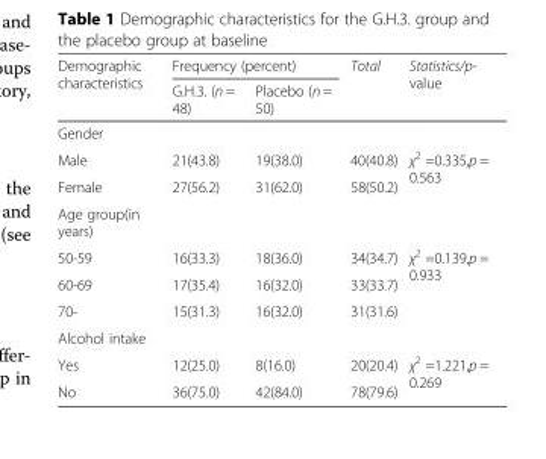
<table><thead><tr><td rowspan="2">Demographic characteristics</td><td colspan="2">Frequency (percent)</td><td rowspan="2">Total</td><td rowspan="2">Statistics/p- value</td></tr><tr><td>G.H.3. (n = 48)</td><td>Placebo (n = 50)</td></tr></thead><tbody><tr><td colspan="5">Gender</td></tr><tr><td>Male</td><td>21(43.8)</td><td>19(38.0)</td><td>40(40.8)</td><td rowspan="2">χ<sup>2</sup> =0.335,p = 0.563</td></tr><tr><td>Female</td><td>27(56.2)</td><td>31(62.0)</td><td>58(50.2)</td></tr><tr><td colspan="5">Age group(in years)</td></tr><tr><td>50-59</td><td>16(33.3)</td><td>18(36.0)</td><td>34(34.7)</td><td rowspan="3">χ<sup>2</sup> =0.139,p = 0.933</td></tr><tr><td>60-69</td><td>17(35.4)</td><td>16(32.0)</td><td>33(33.7)</td></tr><tr><td>70-</td><td>15(31.3)</td><td>16(32.0)</td><td>31(31.6)</td></tr><tr><td colspan="5">Alcohol intake</td></tr><tr><td>Yes</td><td>12(25.0)</td><td>8(16.0)</td><td>20(20.4)</td><td rowspan="2">χ<sup>2</sup> =1.221,p = 0.269</td></tr><tr><td>No</td><td>36(75.0)</td><td>42(84.0)</td><td>78(79.6)</td></tr></tbody></table>